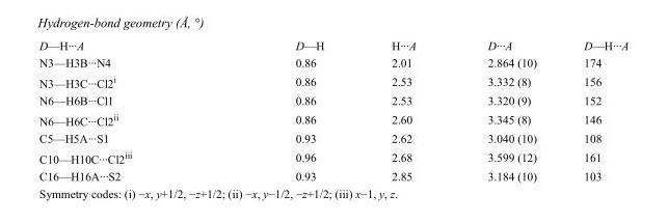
<table><tbody><tr><td>D—H···A</td><td>D—H</td><td>H···A</td><td>D···A</td><td>D—H···A</td></tr><tr><td>N3—H3B···N4</td><td>0.86</td><td>2.01</td><td>2.864 (10)</td><td>174</td></tr><tr><td>N3—H3C···Cl2<sup>i</sup></td><td>0.86</td><td>2.53</td><td>3.332 (8)</td><td>156</td></tr><tr><td>N6—H6B···Cl1</td><td>0.86</td><td>2.53</td><td>3.320 (9)</td><td>152</td></tr><tr><td>N6—H6C···Cl2<sup>ii</sup></td><td>0.86</td><td>2.60</td><td>3.345 (8)</td><td>146</td></tr><tr><td>C5—H5A···S1</td><td>0.93</td><td>2.62</td><td>3.040 (10)</td><td>108</td></tr><tr><td>C10—H10C···Cl2<sup>iii</sup></td><td>0.96</td><td>2.68</td><td>3.599 (12)</td><td>161</td></tr><tr><td>C16—H16A···S2</td><td>0.93</td><td>2.85</td><td>3.184 (10)</td><td>103</td></tr></tbody></table>